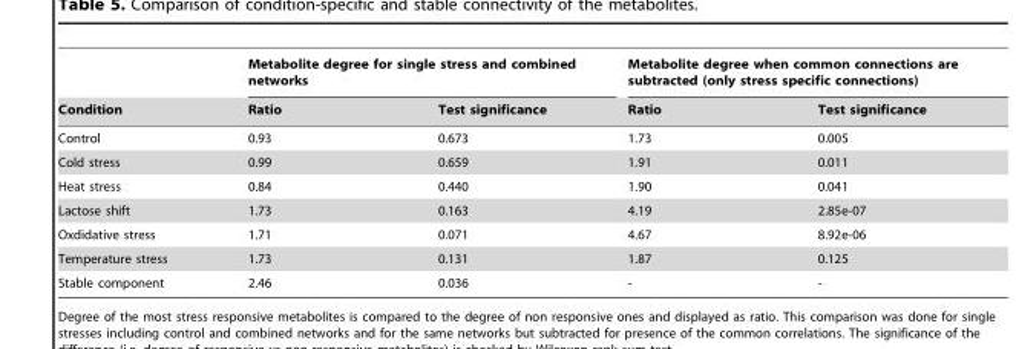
<table><thead><tr><td rowspan="2">Condition</td><td colspan="2">Metabolite degree for single stress and combined networks</td><td colspan="2">Metabolite degree when common connections are subtracted (only stress specific connections)</td></tr><tr><td>Ratio</td><td>Test significance</td><td>Ratio</td><td>Test significance</td></tr></thead><tbody><tr><td>Control</td><td>0.93</td><td>0.673</td><td>1.73</td><td>0.005</td></tr><tr><td>Cold stress</td><td>0.99</td><td>0.659</td><td>1.91</td><td>0.011</td></tr><tr><td>Heat stress</td><td>0.84</td><td>0.440</td><td>1.90</td><td>0.041</td></tr><tr><td>Lactose shift</td><td>1.73</td><td>0.163</td><td>4.19</td><td>2.85e-07</td></tr><tr><td>Oxdidative stress</td><td>1.71</td><td>0.071</td><td>4.67</td><td>8.92e-06</td></tr><tr><td>Temperature stress</td><td>1.73</td><td>0.131</td><td>1.87</td><td>0.125</td></tr><tr><td>Stable component</td><td>2.46</td><td>0.036</td><td>-</td><td>-</td></tr></tbody></table>